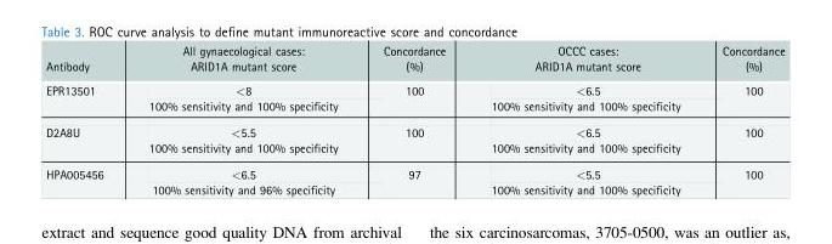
<table><thead><tr><td>Antibody</td><td>All gynaecological cases: ARID1A mutant score</td><td>Concordance (%)</td><td>OCCC cases: ARID1A mutant score</td><td>Concordance (%)</td></tr></thead><tbody><tr><td rowspan="2">EPR13501</td><td>&lt;8</td><td rowspan="2">100</td><td>&lt;6.5</td><td rowspan="2">100</td></tr><tr><td>100% sensitivity and 100% specificity</td><td>100% sensitivity and 100% specificity</td></tr><tr><td rowspan="2">D2A8U</td><td>&lt;5.5</td><td rowspan="2">100</td><td>&lt;6.5</td><td rowspan="2">100</td></tr><tr><td>100% sensitivity and 100% specificity</td><td>100% sensitivity and 100% specificity</td></tr><tr><td rowspan="2">HPA005456</td><td>&lt;6.5</td><td rowspan="2">97</td><td>&lt;5.5</td><td rowspan="2">100</td></tr><tr><td>100% sensitivity and 96% specificity</td><td>100% sensitivity and 100% specificity</td></tr></tbody></table>